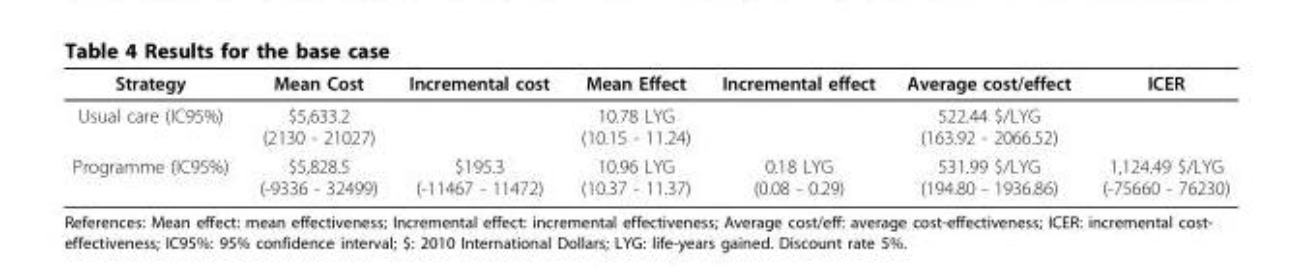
<table><thead><tr><td>Strategy</td><td>Mean Cost</td><td>Incremental cost</td><td>Mean Effect</td><td>Incremental effect</td><td>Average cost/effect</td><td>ICER</td></tr></thead><tbody><tr><td>Usual care (IC95%)</td><td>$5,633.2 (2130 - 21027)</td><td></td><td>10.78 LYG (10.15 - 11.24)</td><td></td><td>522.44 $/LYG (163.92 - 2066.52)</td><td></td></tr><tr><td>Programme (IC95%)</td><td>$5,828.5 (-9336 - 32499)</td><td>$195.3 (-11467 - 11472)</td><td>10.96 LYG (10.37 - 11.37)</td><td>0.18 LYG (0.08 - 0.29)</td><td>531.99 $/LYG (194.80 - 1936.86)</td><td>1,124.49 $/LYG (-75660 - 76230)</td></tr></tbody></table>